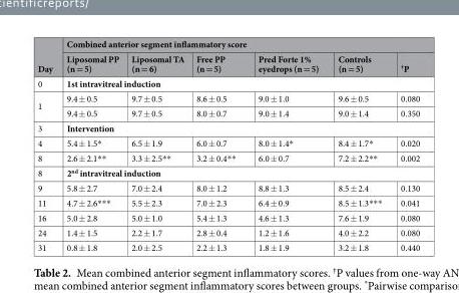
<table><thead><tr><td rowspan="2">Day</td><td colspan="6">Combined anterior segment inflammatory score</td></tr><tr><td>Liposomal PP (n = 5)</td><td>Liposomal TA (n = 6)</td><td>Free PP (n = 5)</td><td>Pred Forte 1% eyedrops (n = 5)</td><td>Controls (n = 5)</td><td><sup>†</sup>P</td></tr></thead><tbody><tr><td>0</td><td colspan="6">1st intravitreal induction</td></tr><tr><td rowspan="2">1</td><td>9.4 ± 0.5</td><td>9.7 ± 0.5</td><td>8.6 ± 0.5</td><td>9.0 ± 1.0</td><td>9.6 ± 0.5</td><td>0.080</td></tr><tr><td>9.4 ± 0.5</td><td>9.7 ± 0.5</td><td>8.0 ± 0.7</td><td>9.0 ± 1.4</td><td>9.0 ± 1.4</td><td>0.350</td></tr><tr><td>3</td><td colspan="6">Intervention</td></tr><tr><td>4</td><td>5.4 ± 1.5*</td><td>6.5 ± 1.9</td><td>6.0 ± 0.7</td><td>8.0 ± 1.4*</td><td>8.4 ± 1.7*</td><td>0.020</td></tr><tr><td>8</td><td>2.6 ± 2.1**</td><td>3.3 ± 2.5**</td><td>3.2 ± 0.4**</td><td>6.0 ± 0.7</td><td>7.2 ± 2.2**</td><td>0.002</td></tr><tr><td>8</td><td colspan="6">2<sup>nd</sup> intravitreal induction</td></tr><tr><td>9</td><td>5.8 ± 2.7</td><td>7.0 ± 2.4</td><td>8.0 ± 1.2</td><td>8.8 ± 1.3</td><td>8.5 ± 2.4</td><td>0.130</td></tr><tr><td>11</td><td>4.7 ± 2.6***</td><td>5.5 ± 2.3</td><td>7.0 ± 2.3</td><td>6.4 ± 0.9</td><td>8.5 ± 1.3***</td><td>0.041</td></tr><tr><td>16</td><td>5.0 ± 2.8</td><td>5.0 ± 1.0</td><td>5.4 ± 1.3</td><td>4.6 ± 1.3</td><td>7.6 ± 1.9</td><td>0.080</td></tr><tr><td>24</td><td>1.4 ± 1.5</td><td>2.2 ± 1.7</td><td>2.8 ± 0.4</td><td>1.2 ± 1.6</td><td>4.0 ± 2.2</td><td>0.080</td></tr><tr><td>31</td><td>0.8 ± 1.8</td><td>2.0 ± 2.5</td><td>2.2 ± 1.3</td><td>1.8 ± 1.9</td><td>3.2 ± 1.8</td><td>0.440</td></tr></tbody></table>